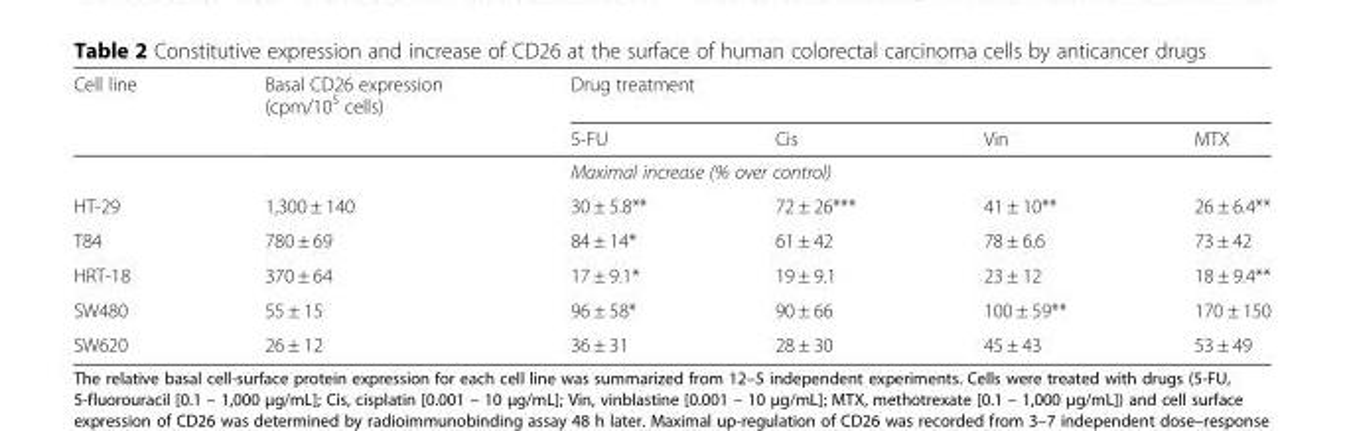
<table><thead><tr><td rowspan="2">Cell line</td><td rowspan="2">Basal CD26 expression (cpm/10<sup>5</sup> cells)</td><td colspan="4">Drug treatment</td></tr><tr><td>5-FU</td><td>Cis</td><td>Vin</td><td>MTX</td></tr></thead><tbody><tr><td></td><td></td><td colspan="4">Maximal increase (% over control)</td></tr><tr><td>HT-29</td><td>1,300 ± 140</td><td>30 ± 5.8**</td><td>72 ± 26***</td><td>41 ± 10**</td><td>26 ± 6.4**</td></tr><tr><td>T84</td><td>780 ± 69</td><td>84 ± 14*</td><td>61 ± 42</td><td>78 ± 6.6</td><td>73 ± 42</td></tr><tr><td>HRT-18</td><td>370 ± 64</td><td>17 ± 9.1*</td><td>19 ± 9.1</td><td>23 ± 12</td><td>18 ± 9.4**</td></tr><tr><td>SW480</td><td>55 ± 15</td><td>96 ± 58*</td><td>90 ± 66</td><td>100 ± 59**</td><td>170 ± 150</td></tr><tr><td>SW620</td><td>26 ± 12</td><td>36 ± 31</td><td>28 ± 30</td><td>45 ± 43</td><td>53 ± 49</td></tr></tbody></table>